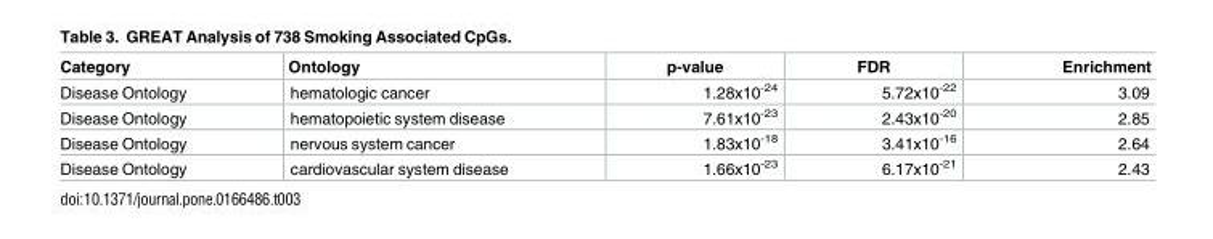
<table><thead><tr><td>Category</td><td>Ontology</td><td>p-value</td><td>FDR</td><td>Enrichment</td></tr></thead><tbody><tr><td>Disease Ontology</td><td>hematologic cancer</td><td>1.28x10<sup>-24</sup></td><td>5.72x10<sup>-22</sup></td><td>3.09</td></tr><tr><td>Disease Ontology</td><td>hematopoietic system disease</td><td>7.61x10<sup>-23</sup></td><td>2.43x10<sup>-20</sup></td><td>2.85</td></tr><tr><td>Disease Ontology</td><td>nervous system cancer</td><td>1.83x10<sup>-18</sup></td><td>3.41x10<sup>-16</sup></td><td>2.64</td></tr><tr><td>Disease Ontology</td><td>cardiovascular system disease</td><td>1.66x10<sup>-23</sup></td><td>6.17x10<sup>-21</sup></td><td>2.43</td></tr></tbody></table>